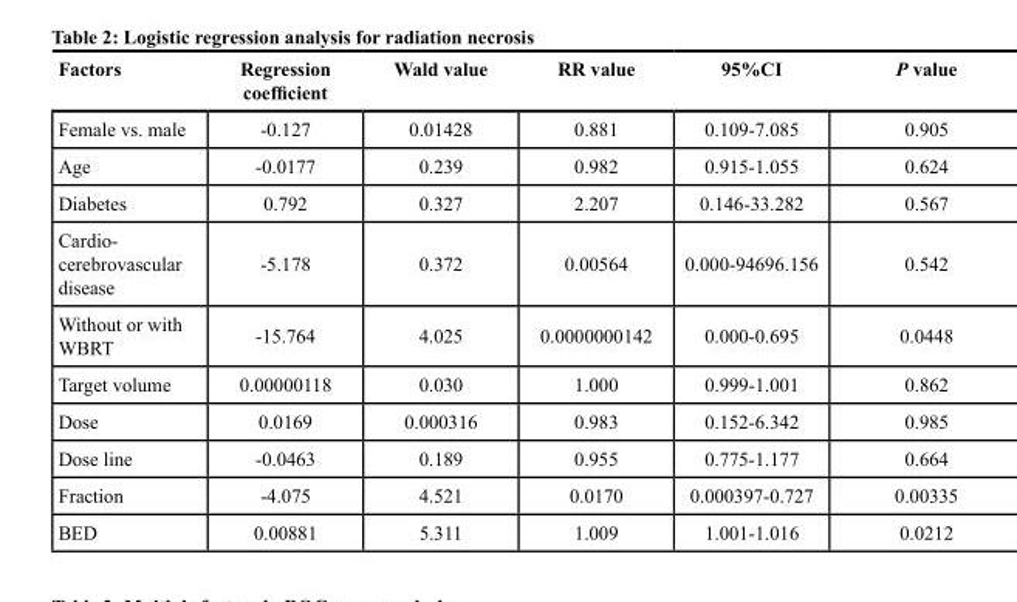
<table><thead><tr><td>Factors</td><td>Regression coefficient</td><td>Wald value</td><td>RR value</td><td>95%CI</td><td>P value</td></tr></thead><tbody><tr><td>Female vs. male</td><td>-0.127</td><td>0.01428</td><td>0.881</td><td>0.109-7.085</td><td>0.905</td></tr><tr><td>Age</td><td>-0.0177</td><td>0.239</td><td>0.982</td><td>0.915-1.055</td><td>0.624</td></tr><tr><td>Diabetes</td><td>0.792</td><td>0.327</td><td>2.207</td><td>0.146-33.282</td><td>0.567</td></tr><tr><td>Cardio- cerebrovascular disease</td><td>-5.178</td><td>0.372</td><td>0.00564</td><td>0.000-94696.156</td><td>0.542</td></tr><tr><td>Without or with WBRT</td><td>-15.764</td><td>4.025</td><td>0.0000000142</td><td>0.000-0.695</td><td>0.0448</td></tr><tr><td>Target volume</td><td>0.00000118</td><td>0.030</td><td>1.000</td><td>0.999-1.001</td><td>0.862</td></tr><tr><td>Dose</td><td>0.0169</td><td>0.000316</td><td>0.983</td><td>0.152-6.342</td><td>0.985</td></tr><tr><td>Dose line</td><td>-0.0463</td><td>0.189</td><td>0.955</td><td>0.775-1.177</td><td>0.664</td></tr><tr><td>Fraction</td><td>-4.075</td><td>4.521</td><td>0.0170</td><td>0.000397-0.727</td><td>0.00335</td></tr><tr><td>BED</td><td>0.00881</td><td>5.311</td><td>1.009</td><td>1.001-1.016</td><td>0.0212</td></tr></tbody></table>